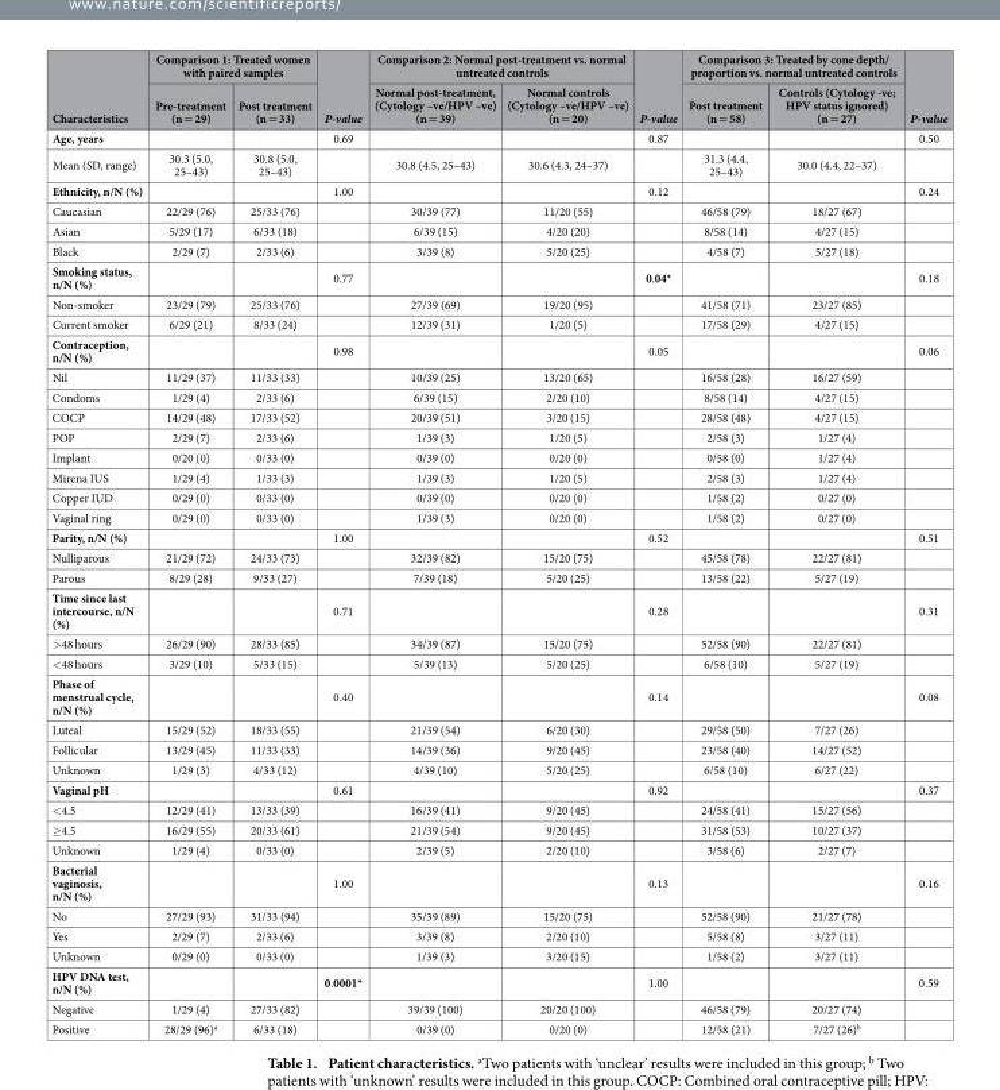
<table><thead><tr><td rowspan="2">Characteristics</td><td colspan="2">Comparison 1: Treated women with paired samples</td><td rowspan="2">P-value</td><td colspan="2">Comparison 2: Normal post-treatment vs. normal untreated controls</td><td rowspan="2">P-value</td><td colspan="2">Comparison 3: Treated by cone depth/ proportion vs. normal untreated controls</td><td rowspan="2">P-value</td></tr><tr><td>Pre-treatment (n = 29)</td><td>Post treatment (n = 33)</td><td>Normal post-treatment, (Cytology –ve/HPV –ve) (n = 39)</td><td>Normal controls (Cytology –ve/HPV –ve) (n = 20)</td><td>Post treatment (n = 58)</td><td>Controls (Cytology -ve; HPV status ignored) (n = 27)</td></tr></thead><tbody><tr><td>Age, years</td><td></td><td></td><td>0.69</td><td></td><td></td><td>0.87</td><td></td><td></td><td>0.50</td></tr><tr><td>Mean (SD, range)</td><td>30.3 (5.0, 25–43)</td><td>30.8 (5.0, 25–43)</td><td></td><td>30.8 (4.5, 25–43)</td><td>30.6 (4.3, 24–37)</td><td></td><td>31.3 (4.4, 25–43)</td><td>30.0 (4.4, 22–37)</td><td></td></tr><tr><td>Ethnicity, n/N (%)</td><td></td><td></td><td>1.00</td><td></td><td></td><td>0.12</td><td></td><td></td><td>0.24</td></tr><tr><td>Caucasian</td><td>22/29 (76)</td><td>25/33 (76)</td><td></td><td>30/39 (77)</td><td>11/20 (55)</td><td></td><td>46/58 (79)</td><td>18/27 (67)</td><td></td></tr><tr><td>Asian</td><td>5/29 (17)</td><td>6/33 (18)</td><td></td><td>6/39 (15)</td><td>4/20 (20)</td><td></td><td>8/58 (14)</td><td>4/27 (15)</td><td></td></tr><tr><td>Black</td><td>2/29 (7)</td><td>2/33 (6)</td><td></td><td>3/39 (8)</td><td>5/20 (25)</td><td></td><td>4/58 (7)</td><td>5/27 (18)</td><td></td></tr><tr><td>Smoking status, n/N (%)</td><td></td><td></td><td>0.77</td><td></td><td></td><td>0.04*</td><td></td><td></td><td>0.18</td></tr><tr><td>Non-smoker</td><td>23/29 (79)</td><td>25/33 (76)</td><td></td><td>27/39 (69)</td><td>19/20 (95)</td><td></td><td>41/58 (71)</td><td>23/27 (85)</td><td></td></tr><tr><td>Current smoker</td><td>6/29 (21)</td><td>8/33 (24)</td><td></td><td>12/39 (31)</td><td>1/20 (5)</td><td></td><td>17/58 (29)</td><td>4/27 (15)</td><td></td></tr><tr><td>Contraception, n/N (%)</td><td></td><td></td><td>0.98</td><td></td><td></td><td>0.05</td><td></td><td></td><td>0.06</td></tr><tr><td>Nil</td><td>11/29 (37)</td><td>11/33 (33)</td><td></td><td>10/39 (25)</td><td>13/20 (65)</td><td></td><td>16/58 (28)</td><td>16/27 (59)</td><td></td></tr><tr><td>Condoms</td><td>1/29 (4)</td><td>2/33 (6)</td><td></td><td>6/39 (15)</td><td>2/20 (10)</td><td></td><td>8/58 (14)</td><td>4/27 (15)</td><td></td></tr><tr><td>COCP</td><td>14/29 (48)</td><td>17/33 (52)</td><td></td><td>20/39 (51)</td><td>3/20 (15)</td><td></td><td>28/58 (48)</td><td>4/27 (15)</td><td></td></tr><tr><td>POP</td><td>2/29 (7)</td><td>2/33 (6)</td><td></td><td>1/39 (3)</td><td>1/20 (5)</td><td></td><td>2/58 (3)</td><td>1/27 (4)</td><td></td></tr><tr><td>Implant</td><td>0/20 (0)</td><td>0/33 (0)</td><td></td><td>0/39 (0)</td><td>0/20 (0)</td><td></td><td>0/58 (0)</td><td>1/27 (4)</td><td></td></tr><tr><td>Mirena IUS</td><td>1/29 (4)</td><td>1/33 (3)</td><td></td><td>1/39 (3)</td><td>1/20 (5)</td><td></td><td>2/58 (3)</td><td>1/27 (4)</td><td></td></tr><tr><td>Copper IUD</td><td>0/29 (0)</td><td>0/33 (0)</td><td></td><td>0/39 (0)</td><td>0/20 (0)</td><td></td><td>1/58 (2)</td><td>0/27 (0)</td><td></td></tr><tr><td>Vaginal ring</td><td>0/29 (0)</td><td>0/33 (0)</td><td></td><td>1/39 (3)</td><td>0/20 (0)</td><td></td><td>1/58 (2)</td><td>0/27 (0)</td><td></td></tr><tr><td>Parity, n/N (%)</td><td></td><td></td><td>1.00</td><td></td><td></td><td>0.52</td><td></td><td></td><td>0.51</td></tr><tr><td>Nulliparous</td><td>21/29 (72)</td><td>24/33 (73)</td><td></td><td>32/39 (82)</td><td>15/20 (75)</td><td></td><td>45/58 (78)</td><td>22/27 (81)</td><td></td></tr><tr><td>Parous</td><td>8/29 (28)</td><td>9/33 (27)</td><td></td><td>7/39 (18)</td><td>5/20 (25)</td><td></td><td>13/58 (22)</td><td>5/27 (19)</td><td></td></tr><tr><td>Time since last intercourse, n/N (%)</td><td></td><td></td><td>0.71</td><td></td><td></td><td>0.28</td><td></td><td></td><td>0.31</td></tr><tr><td>&gt; 48 hours</td><td>26/29 (90)</td><td>28/33 (85)</td><td></td><td>34/39 (87)</td><td>15/20 (75)</td><td></td><td>52/58 (90)</td><td>22/27 (81)</td><td></td></tr><tr><td>&lt; 48 hours</td><td>3/29 (10)</td><td>5/33 (15)</td><td></td><td>5/39 (13)</td><td>5/20 (25)</td><td></td><td>6/58 (10)</td><td>5/27 (19)</td><td></td></tr><tr><td>Phase of menstrual cycle, n/N (%)</td><td></td><td></td><td>0.40</td><td></td><td></td><td>0.14</td><td></td><td></td><td>0.08</td></tr><tr><td>Luteal</td><td>15/29 (52)</td><td>18/33 (55)</td><td></td><td>21/39 (54)</td><td>6/20 (30)</td><td></td><td>29/58 (50)</td><td>7/27 (26)</td><td></td></tr><tr><td>Follicular</td><td>13/29 (45)</td><td>11/33 (33)</td><td></td><td>14/39 (36)</td><td>9/20 (45)</td><td></td><td>23/58 (40)</td><td>14/27 (52)</td><td></td></tr><tr><td>Unknown</td><td>1/29 (3)</td><td>4/33 (12)</td><td></td><td>4/39 (10)</td><td>5/20 (25)</td><td></td><td>6/58 (10)</td><td>6/27 (22)</td><td></td></tr><tr><td>Vaginal pH</td><td></td><td></td><td>0.61</td><td></td><td></td><td>0.92</td><td></td><td></td><td>0.37</td></tr><tr><td>&lt; 4.5</td><td>12/29 (41)</td><td>13/33 (39)</td><td></td><td>16/39 (41)</td><td>9/20 (45)</td><td></td><td>24/58 (41)</td><td>15/27 (56)</td><td></td></tr><tr><td>≥ 4.5</td><td>16/29 (55)</td><td>20/33 (61)</td><td></td><td>21/39 (54)</td><td>9/20 (45)</td><td></td><td>31/58 (53)</td><td>10/27 (37)</td><td></td></tr><tr><td>Unknown</td><td>1/29 (4)</td><td>0/33 (0)</td><td></td><td>2/39 (5)</td><td>2/20 (10)</td><td></td><td>3/58 (6)</td><td>2/27 (7)</td><td></td></tr><tr><td>Bacterial vaginosis, n/N (%)</td><td></td><td></td><td>1.00</td><td></td><td></td><td>0.13</td><td></td><td></td><td>0.16</td></tr><tr><td>No</td><td>27/29 (93)</td><td>31/33 (94)</td><td></td><td>35/39 (89)</td><td>15/20 (75)</td><td></td><td>52/58 (90)</td><td>21/27 (78)</td><td></td></tr><tr><td>Yes</td><td>2/29 (7)</td><td>2/33 (6)</td><td></td><td>3/39 (8)</td><td>2/20 (10)</td><td></td><td>5/58 (8)</td><td>3/27 (11)</td><td></td></tr><tr><td>Unknown</td><td>0/29 (0)</td><td>0/33 (0)</td><td></td><td>1/39 (3)</td><td>3/20 (15)</td><td></td><td>1/58 (2)</td><td>3/27 (11)</td><td></td></tr><tr><td>HPV DNA test, n/N (%)</td><td></td><td></td><td>0.0001*</td><td></td><td></td><td>1.00</td><td></td><td></td><td>0.59</td></tr><tr><td>Negative</td><td>1/29 (4)</td><td>27/33 (82)</td><td></td><td>39/39 (100)</td><td>20/20 (100)</td><td></td><td>46/58 (79)</td><td>20/27 (74)</td><td></td></tr><tr><td>Positive</td><td>28/29 (96)<sup>a</sup></td><td>6/33 (18)</td><td></td><td>0/39 (0)</td><td>0/20 (0)</td><td></td><td>12/58 (21)</td><td>7/27 (26)<sup>b</sup></td><td></td></tr></tbody></table>